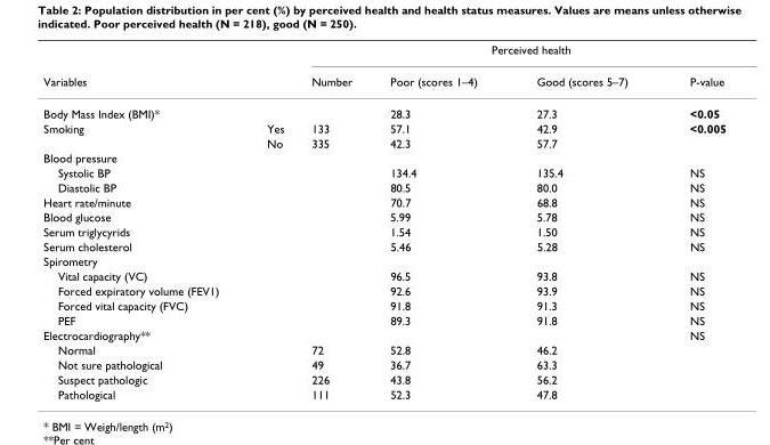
<table><thead><tr><td rowspan="2">Variables</td><td rowspan="2"></td><td colspan="4">Perceived health</td></tr><tr><td>Number</td><td>Poor (scores 1–4)</td><td>Good (scores 5–7)</td><td>P-value</td></tr></thead><tbody><tr><td>Body Mass Index (BMI)*</td><td></td><td></td><td>28.3</td><td>27.3</td><td>&lt;0.05</td></tr><tr><td rowspan="2">Smoking</td><td>Yes</td><td>133</td><td>57.1</td><td>42.9</td><td>&lt;0.005</td></tr><tr><td>No</td><td>335</td><td>42.3</td><td>57.7</td><td></td></tr><tr><td colspan="6">Blood pressure</td></tr><tr><td>Systolic BP</td><td></td><td></td><td>134.4</td><td>135.4</td><td>NS</td></tr><tr><td>Diastolic BP</td><td></td><td></td><td>80.5</td><td>80.0</td><td>NS</td></tr><tr><td>Heart rate/minute</td><td></td><td></td><td>70.7</td><td>68.8</td><td>NS</td></tr><tr><td>Blood glucose</td><td></td><td></td><td>5.99</td><td>5.78</td><td>NS</td></tr><tr><td>Serum triglycyrids</td><td></td><td></td><td>1.54</td><td>1.50</td><td>NS</td></tr><tr><td>Serum cholesterol</td><td></td><td></td><td>5.46</td><td>5.28</td><td>NS</td></tr><tr><td colspan="6">Spirometry</td></tr><tr><td>Vital capacity (VC)</td><td></td><td></td><td>96.5</td><td>93.8</td><td>NS</td></tr><tr><td>Forced expiratory volume (FEV1)</td><td></td><td></td><td>92.6</td><td>93.9</td><td>NS</td></tr><tr><td>Forced vital capacity (FVC)</td><td></td><td></td><td>91.8</td><td>91.3</td><td>NS</td></tr><tr><td>PEF</td><td></td><td></td><td>89.3</td><td>91.8</td><td>NS</td></tr><tr><td>Electrocardiography**</td><td></td><td></td><td></td><td></td><td>NS</td></tr><tr><td>Normal</td><td></td><td>72</td><td>52.8</td><td>46.2</td><td></td></tr><tr><td>Not sure pathological</td><td></td><td>49</td><td>36.7</td><td>63.3</td><td></td></tr><tr><td>Suspect pathologic</td><td></td><td>226</td><td>43.8</td><td>56.2</td><td></td></tr><tr><td>Pathological</td><td></td><td>111</td><td>52.3</td><td>47.8</td><td></td></tr></tbody></table>